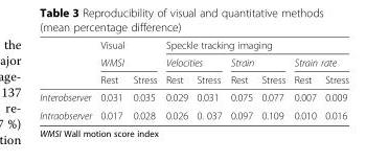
<table><thead><tr><td rowspan="3"></td><td>Visual</td><td></td><td colspan="6">Speckle tracking imaging</td></tr><tr><td colspan="2">WMSI</td><td colspan="2">Velocities</td><td colspan="2">Strain</td><td colspan="2">Strain rate</td></tr><tr><td>Rest</td><td>Stress</td><td>Rest</td><td>Stress</td><td>Rest</td><td>Stress</td><td>Rest</td><td>Stress</td></tr></thead><tbody><tr><td>Interobserver</td><td>0.031</td><td>0.035</td><td>0.029</td><td>0.031</td><td>0.075</td><td>0.077</td><td>0.007</td><td>0.009</td></tr><tr><td>Intraobserver</td><td>0.017</td><td>0.028</td><td>0.026</td><td>0. 037</td><td>0.097</td><td>0.109</td><td>0.010</td><td>0.016</td></tr></tbody></table>